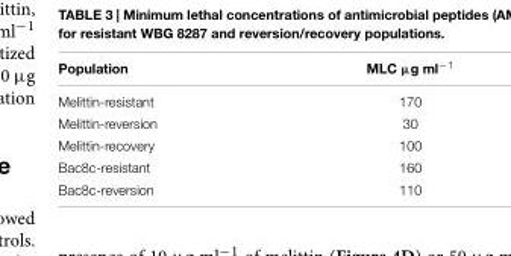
<table><thead><tr><td>Population</td><td>MLC µg ml<sup>−1</sup></td></tr></thead><tbody><tr><td>Melittin-resistant</td><td>170</td></tr><tr><td>Melittin-reversion</td><td>30</td></tr><tr><td>Melittin-recovery</td><td>100</td></tr><tr><td>Bac8c-resistant</td><td>160</td></tr><tr><td>Bac8c-reversion</td><td>110</td></tr></tbody></table>